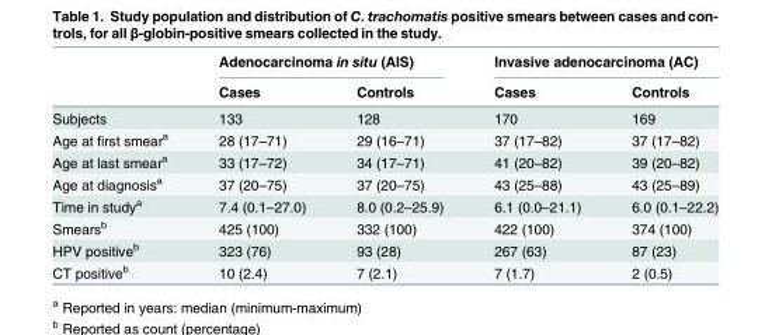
<table><thead><tr><td rowspan="2"></td><td colspan="2">Adenocarcinoma in situ (AIS)</td><td colspan="2">Invasive adenocarcinoma (AC)</td></tr><tr><td>Cases</td><td>Controls</td><td>Cases</td><td>Controls</td></tr></thead><tbody><tr><td>Subjects</td><td>133</td><td>128</td><td>170</td><td>169</td></tr><tr><td>Age at first smear<sup>a</sup></td><td>28 (17–71)</td><td>29 (16–71)</td><td>37 (17–82)</td><td>37 (17–82)</td></tr><tr><td>Age at last smear<sup>a</sup></td><td>33 (17–72)</td><td>34 (17–71)</td><td>41 (20–82)</td><td>39 (20–82)</td></tr><tr><td>Age at diagnosis<sup>a</sup></td><td>37 (20–75)</td><td>37 (20–75)</td><td>43 (25–88)</td><td>43 (25–89)</td></tr><tr><td>Time in study<sup>a</sup></td><td>7.4 (0.1–27.0)</td><td>8.0 (0.2–25.9)</td><td>6.1 (0.0–21.1)</td><td>6.0 (0.1–22.2)</td></tr><tr><td>Smears<sup>b</sup></td><td>425 (100)</td><td>332 (100)</td><td>422 (100)</td><td>374 (100)</td></tr><tr><td>HPV positive<sup>b</sup></td><td>323 (76)</td><td>93 (28)</td><td>267 (63)</td><td>87 (23)</td></tr><tr><td>CT positive<sup>b</sup></td><td>10 (2.4)</td><td>7 (2.1)</td><td>7 (1.7)</td><td>2 (0.5)</td></tr></tbody></table>